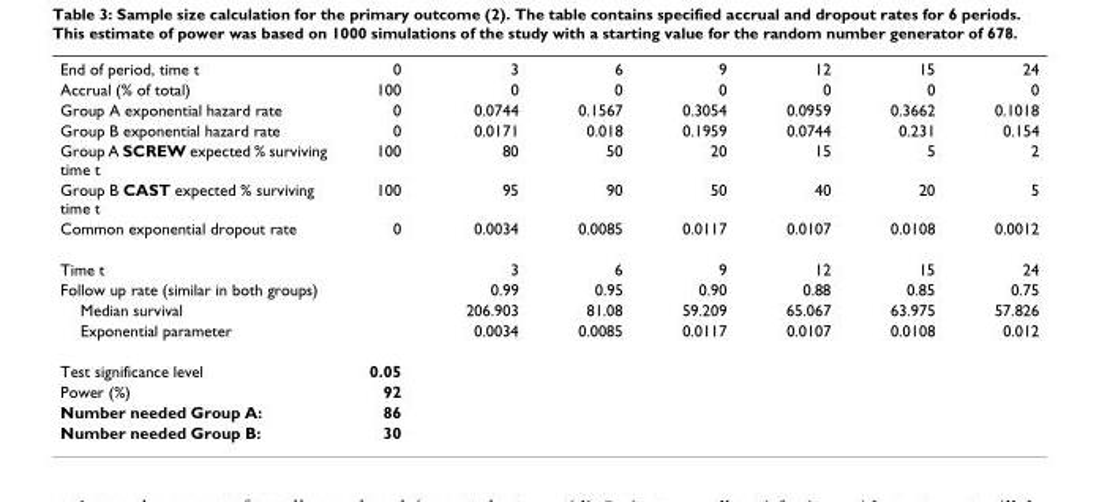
<table><tbody><tr><td>End of period, time t</td><td>0</td><td>3</td><td>6</td><td>9</td><td>12</td><td>15</td><td>24</td></tr><tr><td>Accrual (% of total)</td><td>100</td><td>0</td><td>0</td><td>0</td><td>0</td><td>0</td><td>0</td></tr><tr><td>Group A exponential hazard rate</td><td>0</td><td>0.0744</td><td>0.1567</td><td>0.3054</td><td>0.0959</td><td>0.3662</td><td>0.1018</td></tr><tr><td>Group B exponential hazard rate</td><td>0</td><td>0.0171</td><td>0.018</td><td>0.1959</td><td>0.0744</td><td>0.231</td><td>0.154</td></tr><tr><td>Group A SCREW expected % surviving time t</td><td>100</td><td>80</td><td>50</td><td>20</td><td>15</td><td>5</td><td>2</td></tr><tr><td>Group B CAST expected % surviving time t</td><td>100</td><td>95</td><td>90</td><td>50</td><td>40</td><td>20</td><td>5</td></tr><tr><td>Common exponential dropout rate</td><td>0</td><td>0.0034</td><td>0.0085</td><td>0.0117</td><td>0.0107</td><td>0.0108</td><td>0.0012</td></tr><tr><td>Time t</td><td></td><td>3</td><td>6</td><td>9</td><td>12</td><td>15</td><td>24</td></tr><tr><td>Follow up rate (similar in both groups)</td><td></td><td>0.99</td><td>0.95</td><td>0.90</td><td>0.88</td><td>0.85</td><td>0.75</td></tr><tr><td>Median survival</td><td></td><td>206.903</td><td>81.08</td><td>59.209</td><td>65.067</td><td>63.975</td><td>57.826</td></tr><tr><td>Exponential parameter</td><td></td><td>0.0034</td><td>0.0085</td><td>0.0117</td><td>0.0107</td><td>0.0108</td><td>0.012</td></tr><tr><td>Test significance level</td><td>0.05</td><td></td><td></td><td></td><td></td><td></td><td></td></tr><tr><td>Power (%)</td><td>92</td><td></td><td></td><td></td><td></td><td></td><td></td></tr><tr><td>Number needed Group A:</td><td>86</td><td></td><td></td><td></td><td></td><td></td><td></td></tr><tr><td>Number needed Group B:</td><td>30</td><td></td><td></td><td></td><td></td><td></td><td></td></tr></tbody></table>